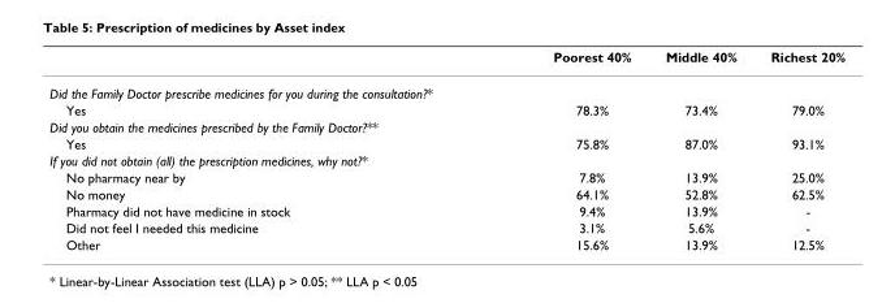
<table><thead><tr><td></td><td>Poorest 40%</td><td>Middle 40%</td><td>Richest 20%</td></tr></thead><tbody><tr><td colspan="4">Did the Family Doctor prescribe medicines for you during the consultation?*</td></tr><tr><td>Yes</td><td>78.3%</td><td>73.4%</td><td>79.0%</td></tr><tr><td colspan="4">Did you obtain the medicines prescribed by the Family Doctor?**</td></tr><tr><td>Yes</td><td>75.8%</td><td>87.0%</td><td>93.1%</td></tr><tr><td colspan="4">If you did not obtain (all) the prescription medicines, why not?*</td></tr><tr><td>No pharmacy near by</td><td>7.8%</td><td>13.9%</td><td>25.0%</td></tr><tr><td>No money</td><td>64.1%</td><td>52.8%</td><td>62.5%</td></tr><tr><td>Pharmacy did not have medicine in stock</td><td>9.4%</td><td>13.9%</td><td>-</td></tr><tr><td>Did not feel I needed this medicine</td><td>3.1%</td><td>5.6%</td><td>-</td></tr><tr><td>Other</td><td>15.6%</td><td>13.9%</td><td>12.5%</td></tr></tbody></table>